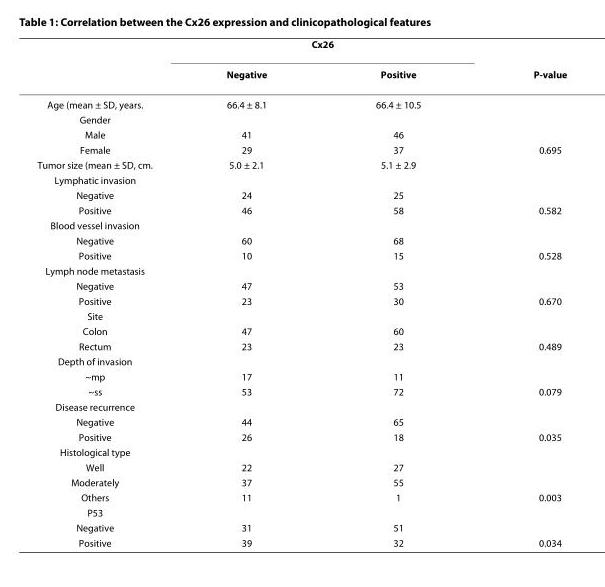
<table><thead><tr><td rowspan="2"></td><td colspan="2">Cx26</td><td rowspan="2">P-value</td></tr><tr><td>Negative</td><td>Positive</td></tr></thead><tbody><tr><td>Age (mean ± SD, years.</td><td>66.4 ± 8.1</td><td>66.4 ± 10.5</td><td></td></tr><tr><td colspan="4">Gender</td></tr><tr><td>Male</td><td>41</td><td>46</td><td></td></tr><tr><td>Female</td><td>29</td><td>37</td><td>0.695</td></tr><tr><td>Tumor size (mean ± SD, cm.</td><td>5.0 ± 2.1</td><td>5.1 ± 2.9</td><td></td></tr><tr><td colspan="4">Lymphatic invasion</td></tr><tr><td>Negative</td><td>24</td><td>25</td><td></td></tr><tr><td>Positive</td><td>46</td><td>58</td><td>0.582</td></tr><tr><td colspan="4">Blood vessel invasion</td></tr><tr><td>Negative</td><td>60</td><td>68</td><td></td></tr><tr><td>Positive</td><td>10</td><td>15</td><td>0.528</td></tr><tr><td colspan="4">Lymph node metastasis</td></tr><tr><td>Negative</td><td>47</td><td>53</td><td></td></tr><tr><td>Positive</td><td>23</td><td>30</td><td>0.670</td></tr><tr><td colspan="4">Site</td></tr><tr><td>Colon</td><td>47</td><td>60</td><td></td></tr><tr><td>Rectum</td><td>23</td><td>23</td><td>0.489</td></tr><tr><td colspan="4">Depth of invasion</td></tr><tr><td>~mp</td><td>17</td><td>11</td><td></td></tr><tr><td>~ss</td><td>53</td><td>72</td><td>0.079</td></tr><tr><td colspan="4">Disease recurrence</td></tr><tr><td>Negative</td><td>44</td><td>65</td><td></td></tr><tr><td>Positive</td><td>26</td><td>18</td><td>0.035</td></tr><tr><td colspan="4">Histological type</td></tr><tr><td>Well</td><td>22</td><td>27</td><td></td></tr><tr><td>Moderately</td><td>37</td><td>55</td><td></td></tr><tr><td>Others</td><td>11</td><td>1</td><td>0.003</td></tr><tr><td colspan="4">P53</td></tr><tr><td>Negative</td><td>31</td><td>51</td><td></td></tr><tr><td>Positive</td><td>39</td><td>32</td><td>0.034</td></tr></tbody></table>